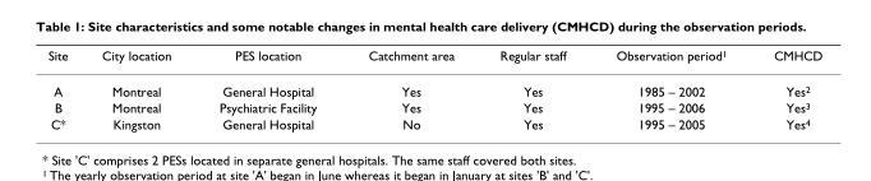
<table><thead><tr><td>Site</td><td>City location</td><td>PES location</td><td>Catchment area</td><td>Regular staff</td><td>Observation period<sup>1</sup></td><td>CMHCD</td></tr></thead><tbody><tr><td>A</td><td>Montreal</td><td>General Hospital</td><td>Yes</td><td>Yes</td><td>1985 – 2002</td><td>Yes<sup>2</sup></td></tr><tr><td>B</td><td>Montreal</td><td>Psychiatric Facility</td><td>Yes</td><td>Yes</td><td>1995 – 2006</td><td>Yes<sup>3</sup></td></tr><tr><td>C*</td><td>Kingston</td><td>General Hospital</td><td>No</td><td>Yes</td><td>1995 – 2005</td><td>Yes<sup>4</sup></td></tr></tbody></table>